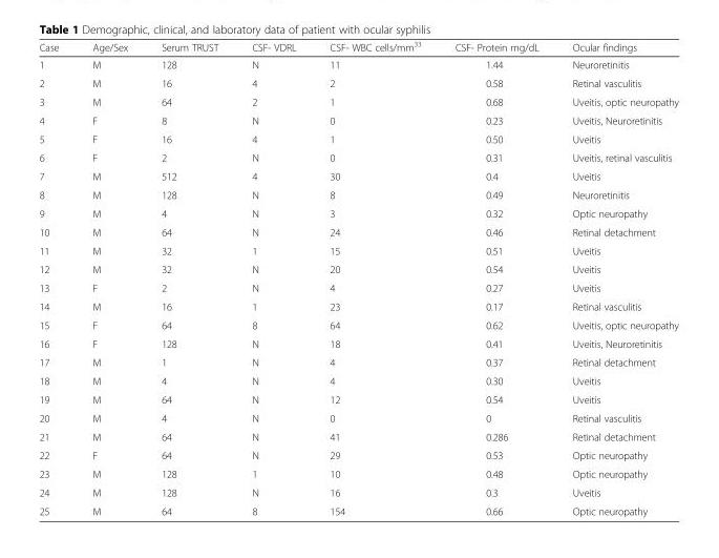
<table><thead><tr><td>Case</td><td>Age/Sex</td><td>Serum TRUST</td><td>CSF- VDRL</td><td>CSF- WBC cells/mm<sup>33</sup></td><td>CSF- Protein mg/dL</td><td>Ocular findings</td></tr></thead><tbody><tr><td>1</td><td>M</td><td>128</td><td>N</td><td>11</td><td>1.44</td><td>Neuroretinitis</td></tr><tr><td>2</td><td>M</td><td>16</td><td>4</td><td>2</td><td>0.58</td><td>Retinal vasculitis</td></tr><tr><td>3</td><td>M</td><td>64</td><td>2</td><td>1</td><td>0.68</td><td>Uveitis, optic neuropathy</td></tr><tr><td>4</td><td>F</td><td>8</td><td>N</td><td>0</td><td>0.23</td><td>Uveitis, Neuroretinitis</td></tr><tr><td>5</td><td>F</td><td>16</td><td>4</td><td>1</td><td>0.50</td><td>Uveitis</td></tr><tr><td>6</td><td>F</td><td>2</td><td>N</td><td>0</td><td>0.31</td><td>Uveitis, retinal vasculitis</td></tr><tr><td>7</td><td>M</td><td>512</td><td>4</td><td>30</td><td>0.4</td><td>Uveitis</td></tr><tr><td>8</td><td>M</td><td>128</td><td>N</td><td>8</td><td>0.49</td><td>Neuroretinitis</td></tr><tr><td>9</td><td>M</td><td>4</td><td>N</td><td>3</td><td>0.32</td><td>Optic neuropathy</td></tr><tr><td>10</td><td>M</td><td>64</td><td>N</td><td>24</td><td>0.46</td><td>Retinal detachment</td></tr><tr><td>11</td><td>M</td><td>32</td><td>1</td><td>15</td><td>0.51</td><td>Uveitis</td></tr><tr><td>12</td><td>M</td><td>32</td><td>N</td><td>20</td><td>0.54</td><td>Uveitis</td></tr><tr><td>13</td><td>F</td><td>2</td><td>N</td><td>4</td><td>0.27</td><td>Uveitis</td></tr><tr><td>14</td><td>M</td><td>16</td><td>1</td><td>23</td><td>0.17</td><td>Retinal vasculitis</td></tr><tr><td>15</td><td>F</td><td>64</td><td>8</td><td>64</td><td>0.62</td><td>Uveitis, optic neuropathy</td></tr><tr><td>16</td><td>F</td><td>128</td><td>N</td><td>18</td><td>0.41</td><td>Uveitis, Neuroretinitis</td></tr><tr><td>17</td><td>M</td><td>1</td><td>N</td><td>4</td><td>0.37</td><td>Retinal detachment</td></tr><tr><td>18</td><td>M</td><td>4</td><td>N</td><td>4</td><td>0.30</td><td>Uveitis</td></tr><tr><td>19</td><td>M</td><td>64</td><td>N</td><td>12</td><td>0.54</td><td>Uveitis</td></tr><tr><td>20</td><td>M</td><td>4</td><td>N</td><td>0</td><td>0</td><td>Retinal vasculitis</td></tr><tr><td>21</td><td>M</td><td>64</td><td>N</td><td>41</td><td>0.286</td><td>Retinal detachment</td></tr><tr><td>22</td><td>F</td><td>64</td><td>N</td><td>29</td><td>0.53</td><td>Optic neuropathy</td></tr><tr><td>23</td><td>M</td><td>128</td><td>1</td><td>10</td><td>0.48</td><td>Optic neuropathy</td></tr><tr><td>24</td><td>M</td><td>128</td><td>N</td><td>16</td><td>0.3</td><td>Uveitis</td></tr><tr><td>25</td><td>M</td><td>64</td><td>8</td><td>154</td><td>0.66</td><td>Optic neuropathy</td></tr></tbody></table>